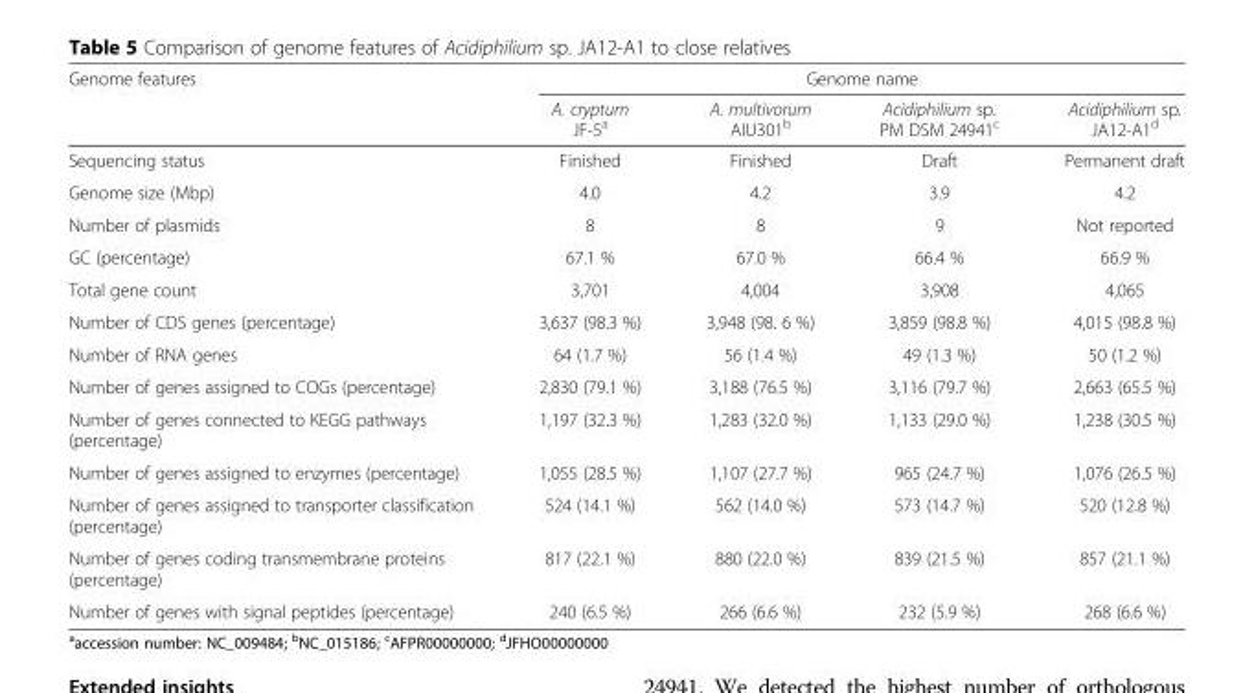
<table><thead><tr><td rowspan="2">Genome features</td><td colspan="4">Genome name</td></tr><tr><td>A. cryptum JF-5<sup>a</sup></td><td>A. multivorum AIU301<sup>b</sup></td><td>Acidiphilium sp. PM DSM 24941<sup>c</sup></td><td>Acidiphilium sp. JA12-A1<sup>d</sup></td></tr></thead><tbody><tr><td>Sequencing status</td><td>Finished</td><td>Finished</td><td>Draft</td><td>Permanent draft</td></tr><tr><td>Genome size (Mbp)</td><td>4.0</td><td>4.2</td><td>3.9</td><td>4.2</td></tr><tr><td>Number of plasmids</td><td>8</td><td>8</td><td>9</td><td>Not reported</td></tr><tr><td>GC (percentage)</td><td>67.1 %</td><td>67.0 %</td><td>66.4 %</td><td>66.9 %</td></tr><tr><td>Total gene count</td><td>3,701</td><td>4,004</td><td>3,908</td><td>4,065</td></tr><tr><td>Number of CDS genes (percentage)</td><td>3,637 (98.3 %)</td><td>3,948 (98. 6 %)</td><td>3,859 (98.8 %)</td><td>4,015 (98.8 %)</td></tr><tr><td>Number of RNA genes</td><td>64 (1.7 %)</td><td>56 (1.4 %)</td><td>49 (1.3 %)</td><td>50 (1.2 %)</td></tr><tr><td>Number of genes assigned to COGs (percentage)</td><td>2,830 (79.1 %)</td><td>3,188 (76.5 %)</td><td>3,116 (79.7 %)</td><td>2,663 (65.5 %)</td></tr><tr><td>Number of genes connected to KEGG pathways (percentage)</td><td>1,197 (32.3 %)</td><td>1,283 (32.0 %)</td><td>1,133 (29.0 %)</td><td>1,238 (30.5 %)</td></tr><tr><td>Number of genes assigned to enzymes (percentage)</td><td>1,055 (28.5 %)</td><td>1,107 (27.7 %)</td><td>965 (24.7 %)</td><td>1,076 (26.5 %)</td></tr><tr><td>Number of genes assigned to transporter classification (percentage)</td><td>524 (14.1 %)</td><td>562 (14.0 %)</td><td>573 (14.7 %)</td><td>520 (12.8 %)</td></tr><tr><td>Number of genes coding transmembrane proteins (percentage)</td><td>817 (22.1 %)</td><td>880 (22.0 %)</td><td>839 (21.5 %)</td><td>857 (21.1 %)</td></tr><tr><td>Number of genes with signal peptides (percentage)</td><td>240 (6.5 %)</td><td>266 (6.6 %)</td><td>232 (5.9 %)</td><td>268 (6.6 %)</td></tr></tbody></table>